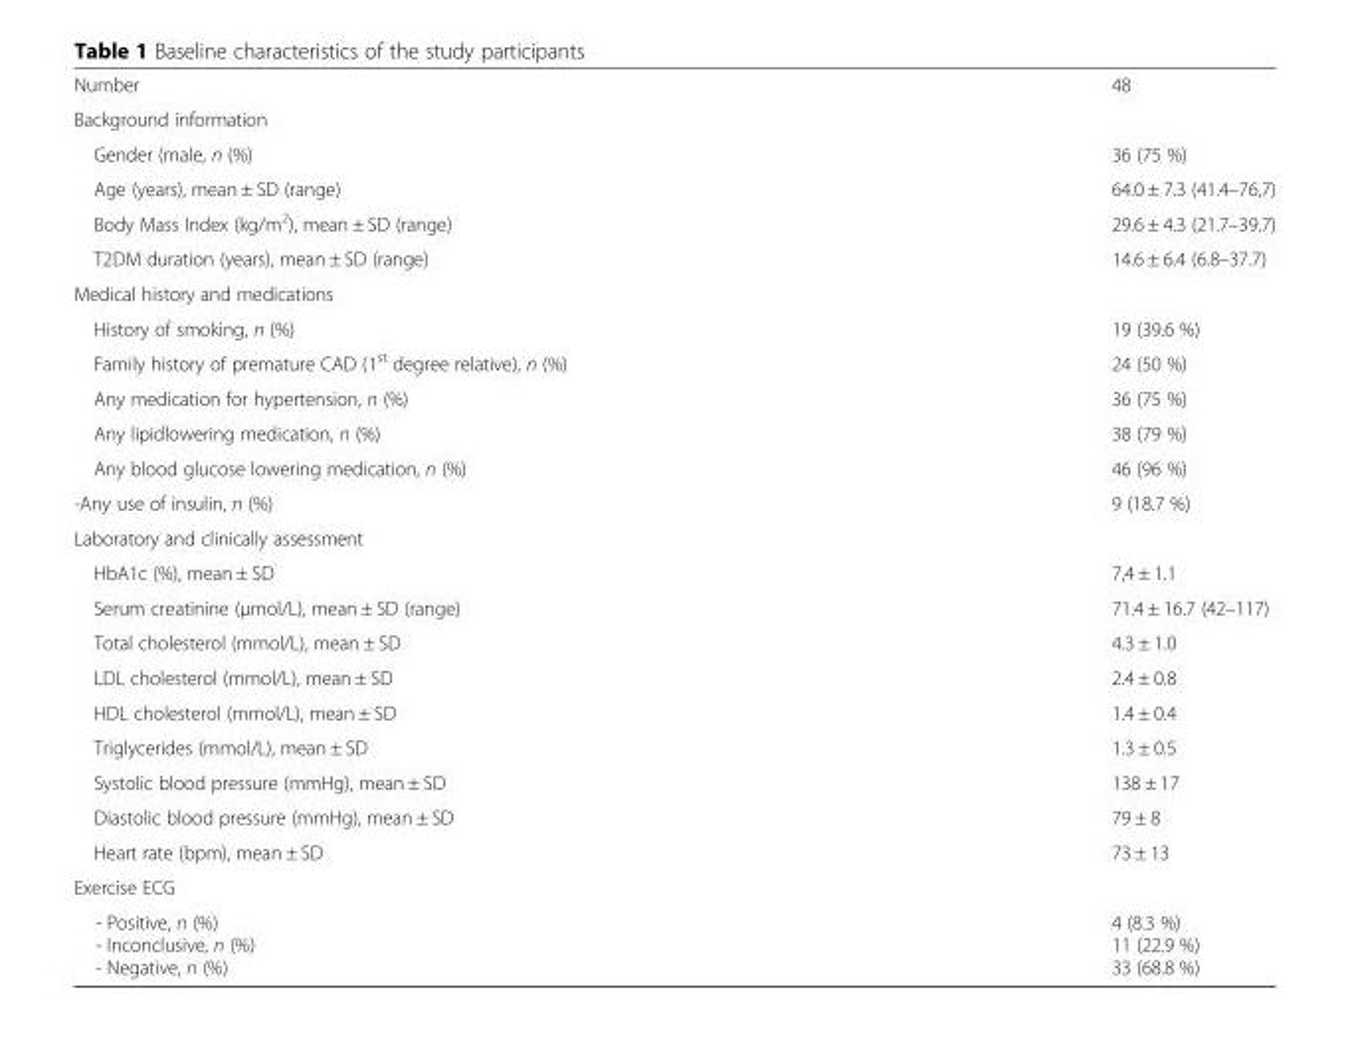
<table><tbody><tr><td>Number</td><td>48</td></tr><tr><td colspan="2">Background information</td></tr><tr><td>Gender (male, n (%)</td><td>36 (75 %)</td></tr><tr><td>Age (years), mean ± SD (range)</td><td>64.0 ± 7.3 (41.4–76,7)</td></tr><tr><td>Body Mass Index (kg/m<sup>2</sup>), mean ± SD (range)</td><td>29.6 ± 4.3 (21.7–39.7)</td></tr><tr><td>T2DM duration (years), mean ± SD (range)</td><td>14.6 ± 6.4 (6.8–37.7)</td></tr><tr><td colspan="2">Medical history and medications</td></tr><tr><td>History of smoking, n (%)</td><td>19 (39.6 %)</td></tr><tr><td>Family history of premature CAD (1<sup>st</sup> degree relative), n (%)</td><td>24 (50 %)</td></tr><tr><td>Any medication for hypertension, n (%)</td><td>36 (75 %)</td></tr><tr><td>Any lipidlowering medication, n (%)</td><td>38 (79 %)</td></tr><tr><td>Any blood glucose lowering medication, n (%)</td><td>46 (96 %)</td></tr><tr><td>-Any use of insulin, n (%)</td><td>9 (18.7 %)</td></tr><tr><td colspan="2">Laboratory and clinically assessment</td></tr><tr><td>HbA1c (%), mean ± SD</td><td>7,4 ± 1.1</td></tr><tr><td>Serum creatinine (μmol/L), mean ± SD (range)</td><td>71.4 ± 16.7 (42–117)</td></tr><tr><td>Total cholesterol (mmol/L), mean ± SD</td><td>4.3 ± 1.0</td></tr><tr><td>LDL cholesterol (mmol/L), mean ± SD</td><td>2.4 ± 0.8</td></tr><tr><td>HDL cholesterol (mmol/L), mean ± SD</td><td>1.4 ± 0.4</td></tr><tr><td>Triglycerides (mmol/L), mean ± SD</td><td>1.3 ± 0.5</td></tr><tr><td>Systolic blood pressure (mmHg), mean ± SD</td><td>138 ± 17</td></tr><tr><td>Diastolic blood pressure (mmHg), mean ± SD</td><td>79 ± 8</td></tr><tr><td>Heart rate (bpm), mean ± SD</td><td>73 ± 13</td></tr><tr><td colspan="2">Exercise ECG</td></tr><tr><td>- Positive, n (%) - Inconclusive, n (%) - Negative, n (%)</td><td>4 (8.3 %) 11 (22.9 %) 33 (68.8 %)</td></tr></tbody></table>